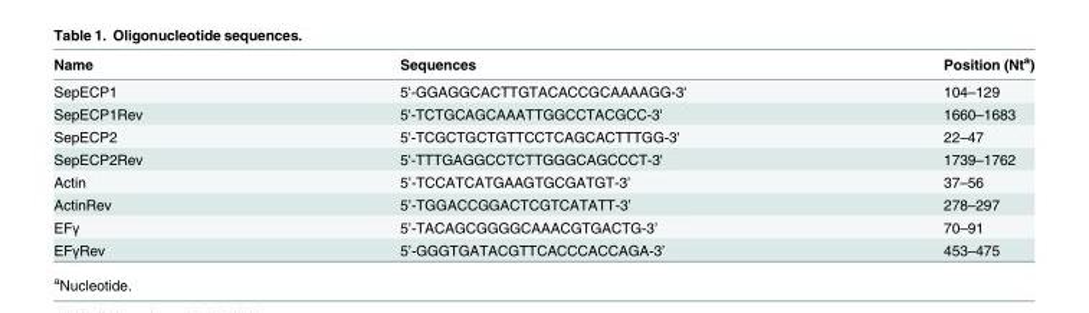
<table><thead><tr><td>Name</td><td>Sequences</td><td>Position (Nt<sup>a</sup>)</td></tr></thead><tbody><tr><td>SepECP1</td><td>5&#x27;-GGAGGCACTTGTACACCGCAAAAGG-3&#x27;</td><td>104–129</td></tr><tr><td>SepECP1Rev</td><td>5&#x27;-TCTGCAGCAAATTGGCCTACGCC-3&#x27;</td><td>1660–1683</td></tr><tr><td>SepECP2</td><td>5&#x27;-TCGCTGCTGTTCCTCAGCACTTTGG-3&#x27;</td><td>22–47</td></tr><tr><td>SepECP2Rev</td><td>5&#x27;-TTTGAGGCCTCTTGGGCAGCCCT-3&#x27;</td><td>1739–1762</td></tr><tr><td>Actin</td><td>5’-TCCATCATGAAGTGCGATGT-3’</td><td>37–56</td></tr><tr><td>ActinRev</td><td>5’-TGGACCGGACTCGTCATATT-3’</td><td>278–297</td></tr><tr><td>EFγ</td><td>5’-TACAGCGGGGCAAACGTGACTG-3’</td><td>70–91</td></tr><tr><td>EFγRev</td><td>5’-GGGTGATACGTTCACCCACCAGA-3’</td><td>453–475</td></tr></tbody></table>